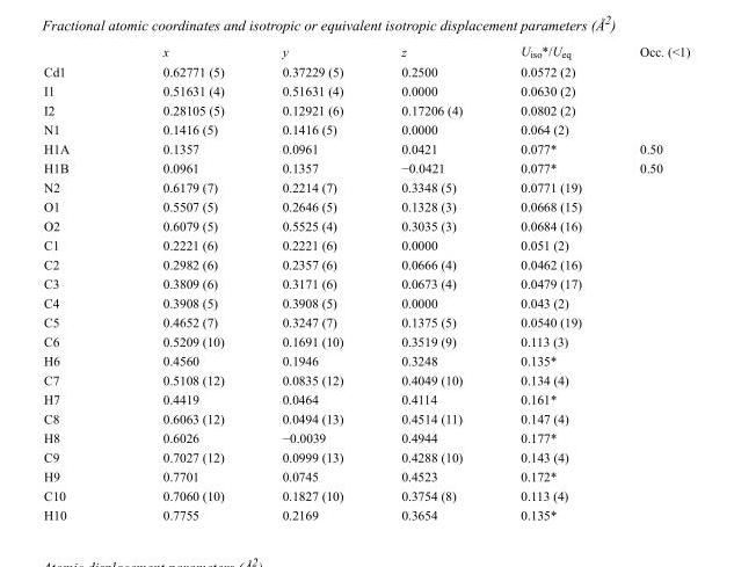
<table><thead><tr><td></td><td>x</td><td>y</td><td>z</td><td>U<sub>iso</sub>*/U<sub>eq</sub></td><td>Occ. (&lt;1)</td></tr></thead><tbody><tr><td>Cd1</td><td>0.62771 (5)</td><td>0.37229 (5)</td><td>0.2500</td><td>0.0572 (2)</td><td></td></tr><tr><td>I1</td><td>0.51631 (4)</td><td>0.51631 (4)</td><td>0.0000</td><td>0.0630 (2)</td><td></td></tr><tr><td>I2</td><td>0.28105 (5)</td><td>0.12921 (6)</td><td>0.17206 (4)</td><td>0.0802 (2)</td><td></td></tr><tr><td>N1</td><td>0.1416 (5)</td><td>0.1416 (5)</td><td>0.0000</td><td>0.064 (2)</td><td></td></tr><tr><td>H1A</td><td>0.1357</td><td>0.0961</td><td>0.0421</td><td>0.077*</td><td>0.50</td></tr><tr><td>H1B</td><td>0.0961</td><td>0.1357</td><td>−0.0421</td><td>0.077*</td><td>0.50</td></tr><tr><td>N2</td><td>0.6179 (7)</td><td>0.2214 (7)</td><td>0.3348 (5)</td><td>0.0771 (19)</td><td></td></tr><tr><td>O1</td><td>0.5507 (5)</td><td>0.2646 (5)</td><td>0.1328 (3)</td><td>0.0668 (15)</td><td></td></tr><tr><td>O2</td><td>0.6079 (5)</td><td>0.5525 (4)</td><td>0.3035 (3)</td><td>0.0684 (16)</td><td></td></tr><tr><td>C1</td><td>0.2221 (6)</td><td>0.2221 (6)</td><td>0.0000</td><td>0.051 (2)</td><td></td></tr><tr><td>C2</td><td>0.2982 (6)</td><td>0.2357 (6)</td><td>0.0666 (4)</td><td>0.0462 (16)</td><td></td></tr><tr><td>C3</td><td>0.3809 (6)</td><td>0.3171 (6)</td><td>0.0673 (4)</td><td>0.0479 (17)</td><td></td></tr><tr><td>C4</td><td>0.3908 (5)</td><td>0.3908 (5)</td><td>0.0000</td><td>0.043 (2)</td><td></td></tr><tr><td>C5</td><td>0.4652 (7)</td><td>0.3247 (7)</td><td>0.1375 (5)</td><td>0.0540 (19)</td><td></td></tr><tr><td>C6</td><td>0.5209 (10)</td><td>0.1691 (10)</td><td>0.3519 (9)</td><td>0.113 (3)</td><td></td></tr><tr><td>H6</td><td>0.4560</td><td>0.1946</td><td>0.3248</td><td>0.135*</td><td></td></tr><tr><td>C7</td><td>0.5108 (12)</td><td>0.0835 (12)</td><td>0.4049 (10)</td><td>0.134 (4)</td><td></td></tr><tr><td>H7</td><td>0.4419</td><td>0.0464</td><td>0.4114</td><td>0.161*</td><td></td></tr><tr><td>C8</td><td>0.6063 (12)</td><td>0.0494 (13)</td><td>0.4514 (11)</td><td>0.147 (4)</td><td></td></tr><tr><td>H8</td><td>0.6026</td><td>−0.0039</td><td>0.4944</td><td>0.177*</td><td></td></tr><tr><td>C9</td><td>0.7027 (12)</td><td>0.0999 (13)</td><td>0.4288 (10)</td><td>0.143 (4)</td><td></td></tr><tr><td>H9</td><td>0.7701</td><td>0.0745</td><td>0.4523</td><td>0.172*</td><td></td></tr><tr><td>C10</td><td>0.7060 (10)</td><td>0.1827 (10)</td><td>0.3754 (8)</td><td>0.113 (4)</td><td></td></tr><tr><td>H10</td><td>0.7755</td><td>0.2169</td><td>0.3654</td><td>0.135*</td><td></td></tr></tbody></table>